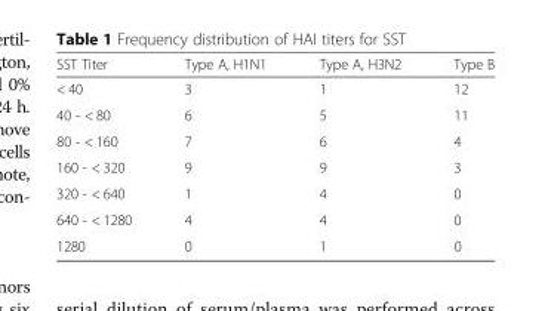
<table><thead><tr><td>SST Titer</td><td>Type A, H1N1</td><td>Type A, H3N2</td><td>Type B</td></tr></thead><tbody><tr><td>&lt; 40</td><td>3</td><td>1</td><td>12</td></tr><tr><td>40 - &lt; 80</td><td>6</td><td>5</td><td>11</td></tr><tr><td>80 - &lt; 160</td><td>7</td><td>6</td><td>4</td></tr><tr><td>160 - &lt; 320</td><td>9</td><td>9</td><td>3</td></tr><tr><td>320 - &lt; 640</td><td>1</td><td>4</td><td>0</td></tr><tr><td>640 - &lt; 1280</td><td>4</td><td>4</td><td>0</td></tr><tr><td>1280</td><td>0</td><td>1</td><td>0</td></tr></tbody></table>